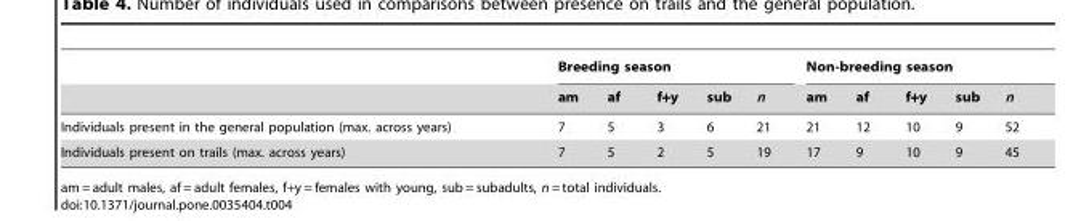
<table><thead><tr><td rowspan="2"></td><td colspan="5">Breeding season</td><td colspan="5">Non-breeding season</td></tr><tr><td>am</td><td>af</td><td>f+y</td><td>sub</td><td>n</td><td>am</td><td>af</td><td>f+y</td><td>sub</td><td>n</td></tr></thead><tbody><tr><td>Individuals present in the general population (max. across years)</td><td>7</td><td>5</td><td>3</td><td>6</td><td>21</td><td>21</td><td>12</td><td>10</td><td>9</td><td>52</td></tr><tr><td>Individuals present on trails (max. across years)</td><td>7</td><td>5</td><td>2</td><td>5</td><td>19</td><td>17</td><td>9</td><td>10</td><td>9</td><td>45</td></tr></tbody></table>